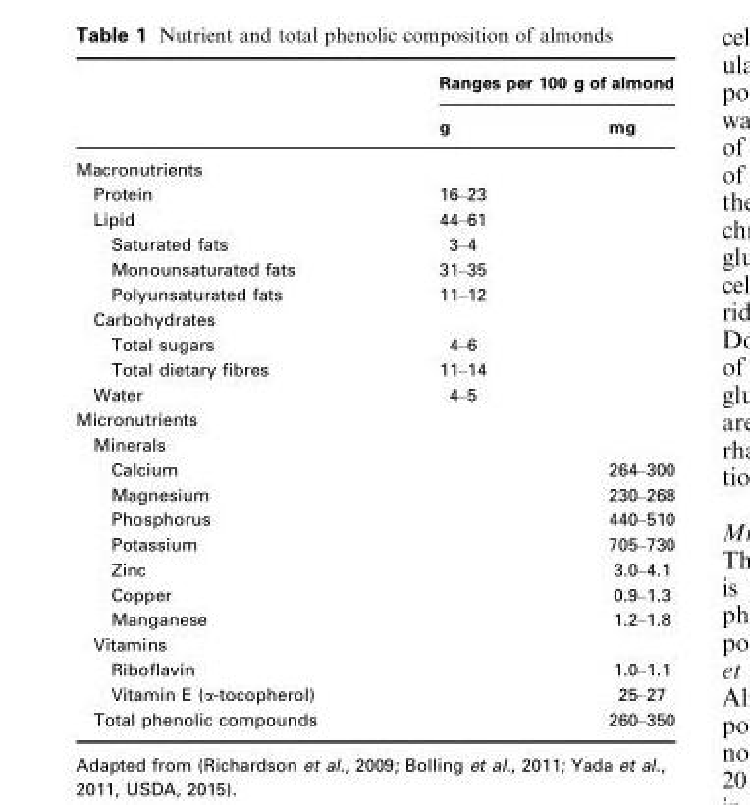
<table><thead><tr><td rowspan="2"></td><td colspan="2">Ranges per 100 g of almond</td></tr><tr><td>g</td><td>mg</td></tr></thead><tbody><tr><td colspan="3">Macronutrients</td></tr><tr><td>Protein</td><td>16–23</td><td></td></tr><tr><td>Lipid</td><td>44–61</td><td></td></tr><tr><td>Saturated fats</td><td>3–4</td><td></td></tr><tr><td>Monounsaturated fats</td><td>31–35</td><td></td></tr><tr><td>Polyunsaturated fats</td><td>11–12</td><td></td></tr><tr><td colspan="3">Carbohydrates</td></tr><tr><td>Total sugars</td><td>4–6</td><td></td></tr><tr><td>Total dietary fibres</td><td>11–14</td><td></td></tr><tr><td>Water</td><td>4–5</td><td></td></tr><tr><td colspan="3">Micronutrients</td></tr><tr><td colspan="3">Minerals</td></tr><tr><td>Calcium</td><td></td><td>264–300</td></tr><tr><td>Magnesium</td><td></td><td>230–268</td></tr><tr><td>Phosphorus</td><td></td><td>440–510</td></tr><tr><td>Potassium</td><td></td><td>705–730</td></tr><tr><td>Zinc</td><td></td><td>3.0–4.1</td></tr><tr><td>Copper</td><td></td><td>0.9–1.3</td></tr><tr><td>Manganese</td><td></td><td>1.2–1.8</td></tr><tr><td colspan="3">Vitamins</td></tr><tr><td>Riboflavin</td><td></td><td>1.0–1.1</td></tr><tr><td>Vitamin E (α-tocopherol)</td><td></td><td>25–27</td></tr><tr><td>Total phenolic compounds</td><td></td><td>260–350</td></tr></tbody></table>